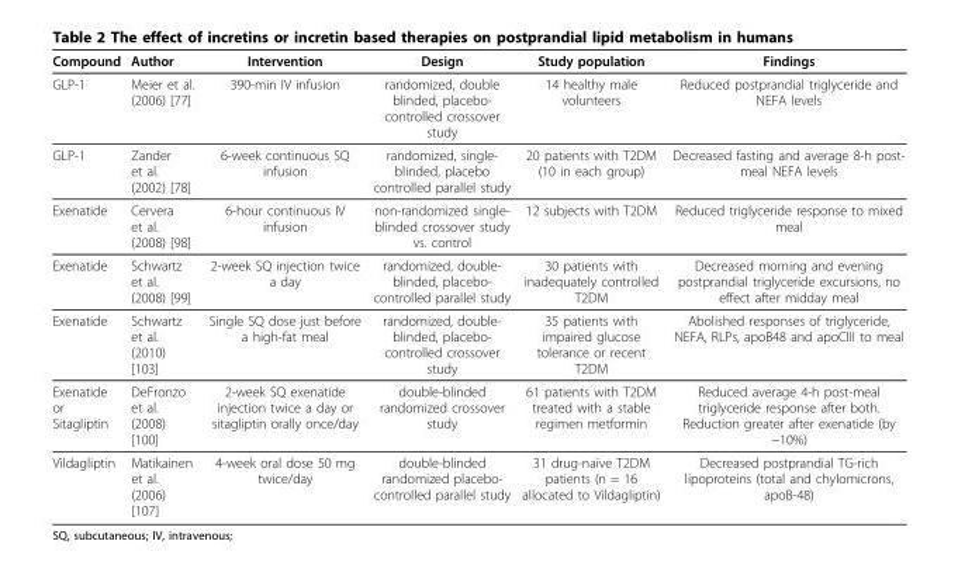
<table><thead><tr><td>Compound</td><td>Author</td><td>Intervention</td><td>Design</td><td>Study population</td><td>Findings</td></tr></thead><tbody><tr><td>GLP-1</td><td>Meier et al. (2006) [77]</td><td>390-min IV infusion</td><td>randomized, double blinded, placebo- controlled crossover study</td><td>14 healthy male volunteers</td><td>Reduced postprandial triglyceride and NEFA levels</td></tr><tr><td>GLP-1</td><td>Zander et al. (2002) [78]</td><td>6-week continuous SQ infusion</td><td>randomized, single- blinded, placebo controlled parallel study</td><td>20 patients with T2DM (10 in each group)</td><td>Decreased fasting and average 8-h post- meal NEFA levels</td></tr><tr><td>Exenatide</td><td>Cervera et al. (2008) [98]</td><td>6-hour continuous IV infusion</td><td>non-randomized single- blinded crossover study vs. control</td><td>12 subjects with T2DM</td><td>Reduced triglyceride response to mixed meal</td></tr><tr><td>Exenatide</td><td>Schwartz et al. (2008) [99]</td><td>2-week SQ injection twice a day</td><td>randomized, double- blinded, placebo- controlled parallel study</td><td>30 patients with inadequately controlled T2DM</td><td>Decreased morning and evening postprandial triglyceride excursions, no effect after midday meal</td></tr><tr><td>Exenatide</td><td>Schwartz et al. (2010) [103]</td><td>Single SQ dose just before a high-fat meal</td><td>randomized, double- blinded, placebo- controlled crossover study</td><td>35 patients with impaired glucose tolerance or recent T2DM</td><td>Abolished responses of triglyceride, NEFA, RLPs, apoB48 and apoCIII to meal</td></tr><tr><td>Exenatide or Sitagliptin</td><td>DeFronzo et al. (2008) [100]</td><td>2-week SQ exenatide injection twice a day or sitagliptin orally once/day</td><td>double-blinded randomized crossover study</td><td>61 patients with T2DM treated with a stable regimen metformin</td><td>Reduced average 4-h post-meal triglyceride response after both. Reduction greater after exenatide (by ~10%)</td></tr><tr><td>Vildagliptin</td><td>Matikainen et al. (2006) [107]</td><td>4-week oral dose 50 mg twice/day</td><td>double-blinded randomized placebo- controlled parallel study</td><td>31 drug-naïve T2DM patients (n = 16 allocated to Vildagliptin)</td><td>Decreased postprandial TG-rich lipoproteins (total and chylomicrons, apoB-48)</td></tr></tbody></table>